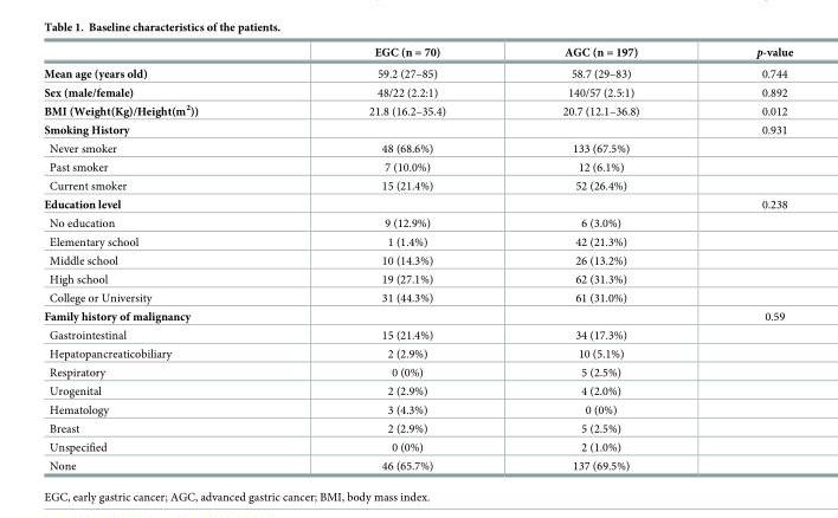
<table><thead><tr><td></td><td>EGC (n = 70)</td><td>AGC (n = 197)</td><td>p-value</td></tr></thead><tbody><tr><td>Mean age (years old)</td><td>59.2 (27–85)</td><td>58.7 (29–83)</td><td>0.744</td></tr><tr><td>Sex (male/female)</td><td>48/22 (2.2:1)</td><td>140/57 (2.5:1)</td><td>0.892</td></tr><tr><td>BMI (Weight(Kg)/Height(m<sup>2</sup>))</td><td>21.8 (16.2–35.4)</td><td>20.7 (12.1–36.8)</td><td>0.012</td></tr><tr><td>Smoking History</td><td></td><td></td><td>0.931</td></tr><tr><td>Never smoker</td><td>48 (68.6%)</td><td>133 (67.5%)</td><td></td></tr><tr><td>Past smoker</td><td>7 (10.0%)</td><td>12 (6.1%)</td><td></td></tr><tr><td>Current smoker</td><td>15 (21.4%)</td><td>52 (26.4%)</td><td></td></tr><tr><td>Education level</td><td></td><td></td><td>0.238</td></tr><tr><td>No education</td><td>9 (12.9%)</td><td>6 (3.0%)</td><td></td></tr><tr><td>Elementary school</td><td>1 (1.4%)</td><td>42 (21.3%)</td><td></td></tr><tr><td>Middle school</td><td>10 (14.3%)</td><td>26 (13.2%)</td><td></td></tr><tr><td>High school</td><td>19 (27.1%)</td><td>62 (31.3%)</td><td></td></tr><tr><td>College or University</td><td>31 (44.3%)</td><td>61 (31.0%)</td><td></td></tr><tr><td>Family history of malignancy</td><td></td><td></td><td>0.59</td></tr><tr><td>Gastrointestinal</td><td>15 (21.4%)</td><td>34 (17.3%)</td><td></td></tr><tr><td>Hepatopancreaticobiliary</td><td>2 (2.9%)</td><td>10 (5.1%)</td><td></td></tr><tr><td>Respiratory</td><td>0 (0%)</td><td>5 (2.5%)</td><td></td></tr><tr><td>Urogenital</td><td>2 (2.9%)</td><td>4 (2.0%)</td><td></td></tr><tr><td>Hematology</td><td>3 (4.3%)</td><td>0 (0%)</td><td></td></tr><tr><td>Breast</td><td>2 (2.9%)</td><td>5 (2.5%)</td><td></td></tr><tr><td>Unspecified</td><td>0 (0%)</td><td>2 (1.0%)</td><td></td></tr><tr><td>None</td><td>46 (65.7%)</td><td>137 (69.5%)</td><td></td></tr></tbody></table>